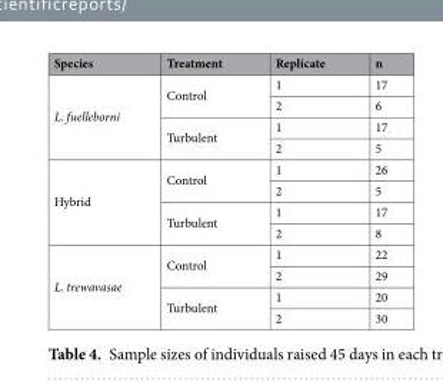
<table><thead><tr><td>Species</td><td>Treatment</td><td>Replicate</td><td>n</td></tr></thead><tbody><tr><td rowspan="4">L. fuelleborni</td><td rowspan="2">Control</td><td>1</td><td>17</td></tr><tr><td>2</td><td>6</td></tr><tr><td rowspan="2">Turbulent</td><td>1</td><td>17</td></tr><tr><td>2</td><td>5</td></tr><tr><td rowspan="4">Hybrid</td><td rowspan="2">Control</td><td>1</td><td>26</td></tr><tr><td>2</td><td>5</td></tr><tr><td rowspan="2">Turbulent</td><td>1</td><td>17</td></tr><tr><td>2</td><td>8</td></tr><tr><td rowspan="4">L. trewavasae</td><td rowspan="2">Control</td><td>1</td><td>22</td></tr><tr><td>2</td><td>29</td></tr><tr><td rowspan="2">Turbulent</td><td>1</td><td>20</td></tr><tr><td>2</td><td>30</td></tr></tbody></table>